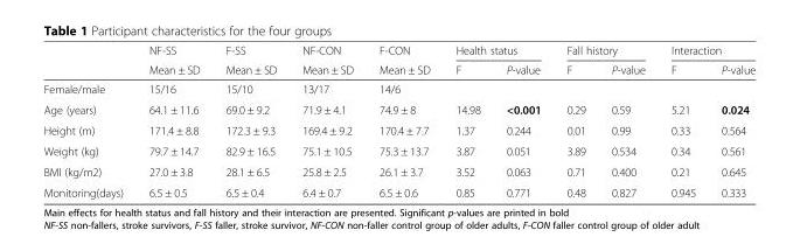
<table><thead><tr><td rowspan="2"></td><td rowspan="2">NF-SS Mean ± SD</td><td rowspan="2">F-SS Mean ± SD</td><td rowspan="2">NF-CON Mean ± SD</td><td rowspan="2">F-CON Mean ± SD</td><td colspan="2">Health status</td><td colspan="2">Fall history</td><td colspan="2">Interaction</td></tr><tr><td>F</td><td>P-value</td><td>F</td><td>P-value</td><td>F</td><td>P-value</td></tr></thead><tbody><tr><td>Female/male</td><td>15/16</td><td>15/10</td><td>13/17</td><td>14/6</td><td></td><td></td><td></td><td></td><td></td><td></td></tr><tr><td>Age (years)</td><td>64.1 ± 11.6</td><td>69.0 ± 9.2</td><td>71.9 ± 4.1</td><td>74.9 ± 8</td><td>14.98</td><td>&lt;0.001</td><td>0.29</td><td>0.59</td><td>5.21</td><td>0.024</td></tr><tr><td>Height (m)</td><td>171.4 ± 8.8</td><td>172.3 ± 9.3</td><td>169.4 ± 9.2</td><td>170.4 ± 7.7</td><td>1.37</td><td>0.244</td><td>0.01</td><td>0.99</td><td>0.33</td><td>0.564</td></tr><tr><td>Weight (kg)</td><td>79.7 ± 14.7</td><td>82.9 ± 16.5</td><td>75.1 ± 10.5</td><td>75.3 ± 13.7</td><td>3.87</td><td>0.051</td><td>3.89</td><td>0.534</td><td>0.34</td><td>0.561</td></tr><tr><td>BMI (kg/m2)</td><td>27.0 ± 3.8</td><td>28.1 ± 6.5</td><td>25.8 ± 2.5</td><td>26.1 ± 3.7</td><td>3.52</td><td>0.063</td><td>0.71</td><td>0.400</td><td>0.21</td><td>0.645</td></tr><tr><td>Monitoring(days)</td><td>6.5 ± 0.5</td><td>6.5 ± 0.4</td><td>6.4 ± 0.7</td><td>6.5 ± 0.6</td><td>0.85</td><td>0.771</td><td>0.48</td><td>0.827</td><td>0.945</td><td>0.333</td></tr></tbody></table>